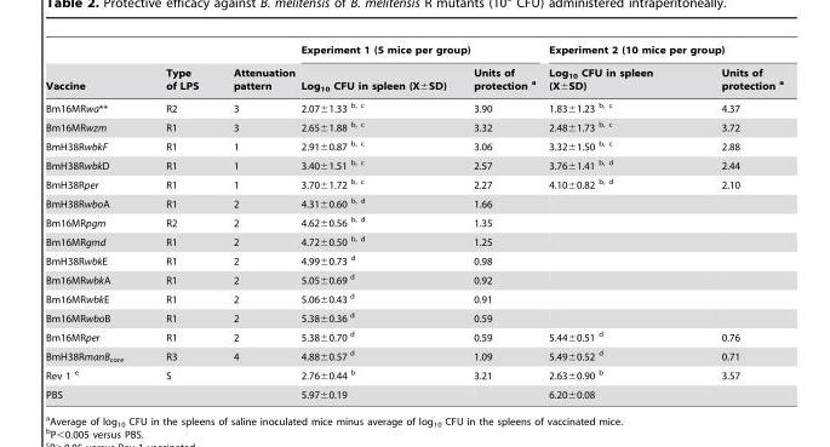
<table><thead><tr><td rowspan="2">Vaccine</td><td rowspan="2">Type of LPS</td><td rowspan="2">Attenuation pattern</td><td colspan="2">Experiment 1 (5 mice per group)</td><td colspan="2">Experiment 2 (10 mice per group)</td></tr><tr><td>Log<sub>10</sub> CFU in spleen (X±SD)</td><td>Units of protection a</td><td>Log<sub>10</sub> CFU in spleen (X±SD)</td><td>Units of protection a</td></tr></thead><tbody><tr><td>Bm16MRwa**</td><td>R2</td><td>3</td><td>2.07±1.33 b, c</td><td>3.90</td><td>1.83±1.23 b, c</td><td>4.37</td></tr><tr><td>Bm16MRwzm</td><td>R1</td><td>3</td><td>2.65±1.88 b, c</td><td>3.32</td><td>2.48±1.73 b, c</td><td>3.72</td></tr><tr><td>BmH38RwbkF</td><td>R1</td><td>1</td><td>2.91±0.87 b, c</td><td>3.06</td><td>3.32±1.50 b, c</td><td>2.88</td></tr><tr><td>BmH38RwbkD</td><td>R1</td><td>1</td><td>3.40±1.51 b, c</td><td>2.57</td><td>3.76±1.41 b, d</td><td>2.44</td></tr><tr><td>BmH38Rper</td><td>R1</td><td>1</td><td>3.70±1.72 b, c</td><td>2.27</td><td>4.10±0.82 b, d</td><td>2.10</td></tr><tr><td>BmH38RwboA</td><td>R1</td><td>2</td><td>4.31±0.60 b, d</td><td>1.66</td><td></td><td></td></tr><tr><td>Bm16MRpgm</td><td>R2</td><td>2</td><td>4.62±0.56 b, d</td><td>1.35</td><td></td><td></td></tr><tr><td>Bm16MRgmd</td><td>R1</td><td>2</td><td>4.72±0.50 b, d</td><td>1.25</td><td></td><td></td></tr><tr><td>BmH38RwbkE</td><td>R1</td><td>2</td><td>4.99±0.73 d</td><td>0.98</td><td></td><td></td></tr><tr><td>Bm16MRwbkA</td><td>R1</td><td>2</td><td>5.05±0.69 d</td><td>0.92</td><td></td><td></td></tr><tr><td>Bm16MRwbkE</td><td>R1</td><td>2</td><td>5.06±0.43 d</td><td>0.91</td><td></td><td></td></tr><tr><td>Bm16MRwboB</td><td>R1</td><td>2</td><td>5.38±0.36 d</td><td>0.59</td><td></td><td></td></tr><tr><td>Bm16MRper</td><td>R1</td><td>2</td><td>5.38±0.70 d</td><td>0.59</td><td>5.44±0.51 d</td><td>0.76</td></tr><tr><td>BmH38RmanB<sub>core</sub></td><td>R3</td><td>4</td><td>4.88±0.57 d</td><td>1.09</td><td>5.49±0.52 d</td><td>0.71</td></tr><tr><td>Rev 1 e</td><td>S</td><td></td><td>2.76±0.44 b</td><td>3.21</td><td>2.63±0.90 b</td><td>3.57</td></tr><tr><td>PBS</td><td></td><td></td><td>5.97±0.19</td><td></td><td>6.20±0.08</td><td></td></tr></tbody></table>